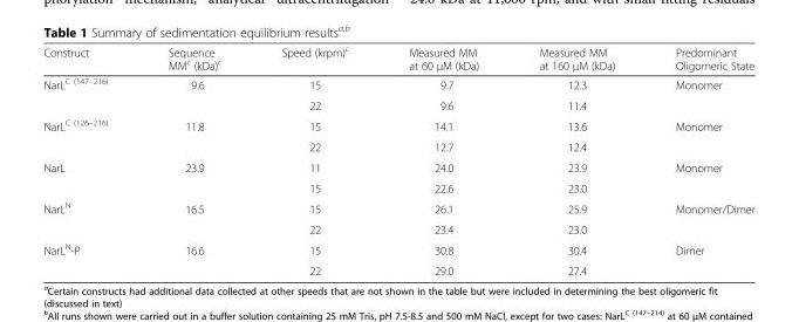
<table><thead><tr><td>Construct</td><td>Sequence MM<sup>c</sup> (kDa)<sup>c</sup></td><td>Speed (krpm)<sup>c</sup></td><td>Measured MM at 60 μM (kDa)</td><td>Measured MM at 160 μM (kDa)</td><td>Predominant Oligomeric State</td></tr></thead><tbody><tr><td rowspan="2">NarL<sup>C (147–216)</sup></td><td>9.6</td><td>15</td><td>9.7</td><td>12.3</td><td>Monomer</td></tr><tr><td></td><td>22</td><td>9.6</td><td>11.4</td><td></td></tr><tr><td rowspan="2">NarL<sup>C (126–216)</sup></td><td>11.8</td><td>15</td><td>14.1</td><td>13.6</td><td>Monomer</td></tr><tr><td></td><td>22</td><td>12.7</td><td>12.4</td><td></td></tr><tr><td rowspan="2">NarL</td><td>23.9</td><td>11</td><td>24.0</td><td>23.9</td><td>Monomer</td></tr><tr><td></td><td>15</td><td>22.6</td><td>23.0</td><td></td></tr><tr><td rowspan="2">NarL<sup>N</sup></td><td>16.5</td><td>15</td><td>26.1</td><td>25.9</td><td>Monomer/Dimer</td></tr><tr><td></td><td>22</td><td>23.4</td><td>23.0</td><td></td></tr><tr><td rowspan="2">NarL<sup>N</sup>-P</td><td>16.6</td><td>15</td><td>30.8</td><td>30.4</td><td>Dimer</td></tr><tr><td></td><td>22</td><td>29.0</td><td>27.4</td><td></td></tr></tbody></table>